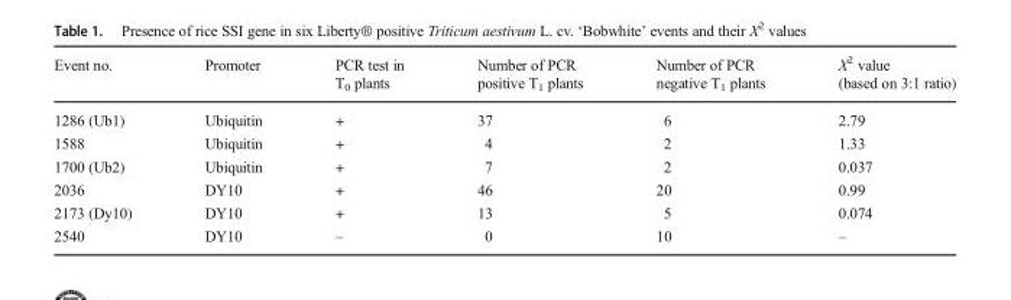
<table><thead><tr><td>Event no.</td><td>Promoter</td><td>PCR test in T<sub>0</sub> plants</td><td>Number of PCR positive T<sub>1</sub> plants</td><td>Number of PCR negative T<sub>1</sub> plants</td><td>Χ<sup>2</sup> value (based on 3:1 ratio)</td></tr></thead><tbody><tr><td>1286 (Ub1)</td><td>Ubiquitin</td><td>+</td><td>37</td><td>6</td><td>2.79</td></tr><tr><td>1588</td><td>Ubiquitin</td><td>+</td><td>4</td><td>2</td><td>1.33</td></tr><tr><td>1700 (Ub2)</td><td>Ubiquitin</td><td>+</td><td>7</td><td>2</td><td>0.037</td></tr><tr><td>2036</td><td>DY10</td><td>+</td><td>46</td><td>20</td><td>0.99</td></tr><tr><td>2173 (Dy10)</td><td>DY10</td><td>+</td><td>13</td><td>5</td><td>0.074</td></tr><tr><td>2540</td><td>DY10</td><td>–</td><td>0</td><td>10</td><td>–</td></tr></tbody></table>